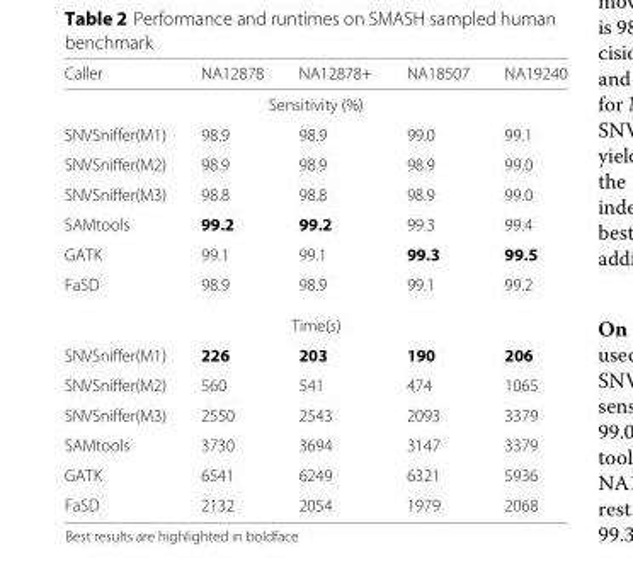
<table><thead><tr><td>Caller</td><td>NA12878</td><td>NA12878+</td><td>NA18507</td><td>NA19240</td></tr></thead><tbody><tr><td colspan="5">Sensitivity (%)</td></tr><tr><td>SNVSniffer(M1)</td><td>98.9</td><td>98.9</td><td>99.0</td><td>99.1</td></tr><tr><td>SNVSniffer(M2)</td><td>98.9</td><td>98.9</td><td>98.9</td><td>99.0</td></tr><tr><td>SNVSniffer(M3)</td><td>98.8</td><td>98.8</td><td>98.9</td><td>99.0</td></tr><tr><td>SAMtools</td><td>99.2</td><td>99.2</td><td>99.3</td><td>99.4</td></tr><tr><td>GATK</td><td>99.1</td><td>99.1</td><td>99.3</td><td>99.5</td></tr><tr><td>FaSD</td><td>98.9</td><td>98.9</td><td>99.1</td><td>99.2</td></tr><tr><td colspan="5">Time(s)</td></tr><tr><td>SNVSniffer(M1)</td><td>226</td><td>203</td><td>190</td><td>206</td></tr><tr><td>SNVSniffer(M2)</td><td>560</td><td>541</td><td>474</td><td>1065</td></tr><tr><td>SNVSniffer(M3)</td><td>2550</td><td>2543</td><td>2093</td><td>3379</td></tr><tr><td>SAMtools</td><td>3730</td><td>3694</td><td>3147</td><td>3379</td></tr><tr><td>GATK</td><td>6541</td><td>6249</td><td>6321</td><td>5936</td></tr><tr><td>FaSD</td><td>2132</td><td>2054</td><td>1979</td><td>2068</td></tr></tbody></table>